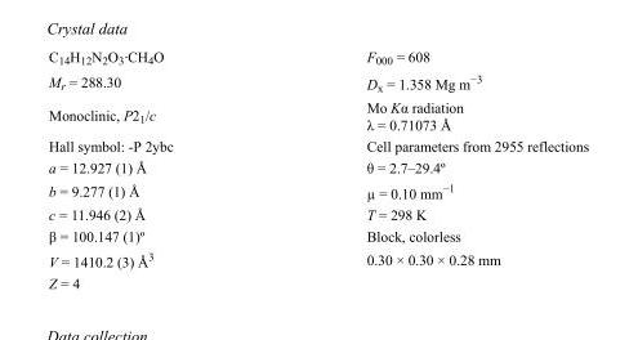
<table><tbody><tr><td>C<sub>14</sub>H<sub>12</sub>N<sub>2</sub>O<sub>3</sub>·CH<sub>4</sub>O</td><td>F000 = 608</td></tr><tr><td>M<sub>r</sub> = 288.30</td><td>D<sub>x</sub> = 1.358 Mg m<sup>−3</sup></td></tr><tr><td>Monoclinic, P2<sub>1</sub>/c</td><td>Mo Kα radiation λ = 0.71073 Å</td></tr><tr><td>Hall symbol: -P 2ybc</td><td>Cell parameters from 2955 reflections</td></tr><tr><td>a = 12.927 (1) Å</td><td>θ = 2.7–29.4º</td></tr><tr><td>b = 9.277 (1) Å</td><td>µ = 0.10 mm<sup>−1</sup></td></tr><tr><td>c = 11.946 (2) Å</td><td>T = 298 K</td></tr><tr><td>β = 100.147 (1)º</td><td>Block, colorless</td></tr><tr><td>V = 1410.2 (3) Å<sup>3</sup></td><td>0.30 × 0.30 × 0.28 mm</td></tr><tr><td>Z = 4</td><td></td></tr></tbody></table>